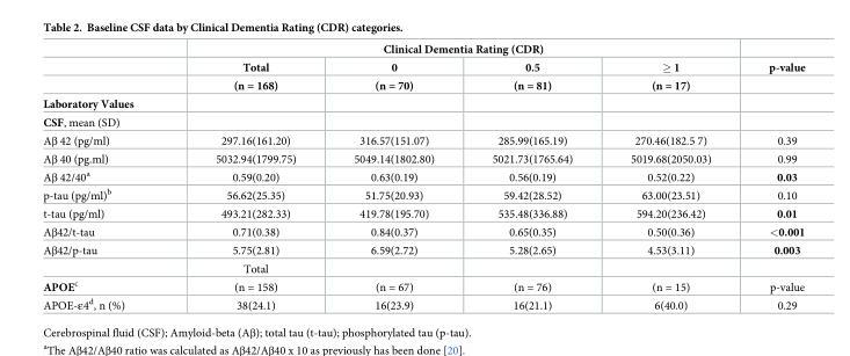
<table><thead><tr><td rowspan="3"></td><td colspan="4">Clinical Dementia Rating (CDR)</td><td rowspan="3">p-value</td></tr><tr><td rowspan="2">Total (n = 168)</td><td rowspan="2">0 (n = 70)</td><td rowspan="2">0.5 (n = 81)</td><td rowspan="2">≥ 1 (n = 17)</td></tr><tr></tr></thead><tbody><tr><td colspan="6">Laboratory Values</td></tr><tr><td colspan="6">CSF, mean (SD)</td></tr><tr><td>Aβ 42 (pg/ml)</td><td>297.16(161.20)</td><td>316.57(151.07)</td><td>285.99(165.19)</td><td>270.46(182.5 7)</td><td>0.39</td></tr><tr><td>Aβ 40 (pg.ml)</td><td>5032.94(1799.75)</td><td>5049.14(1802.80)</td><td>5021.73(1765.64)</td><td>5019.68(2050.03)</td><td>0.99</td></tr><tr><td>Aβ 42/40<sup>a</sup></td><td>0.59(0.20)</td><td>0.63(0.19)</td><td>0.56(0.19)</td><td>0.52(0.22)</td><td>0.03</td></tr><tr><td>p-tau (pg/ml)<sup>b</sup></td><td>56.62(25.35)</td><td>51.75(20.93)</td><td>59.42(28.52)</td><td>63.00(23.51)</td><td>0.10</td></tr><tr><td>t-tau (pg/ml)</td><td>493.21(282.33)</td><td>419.78(195.70)</td><td>535.48(336.88)</td><td>594.20(236.42)</td><td>0.01</td></tr><tr><td>Aβ42/t-tau</td><td>0.71(0.38)</td><td>0.84(0.37)</td><td>0.65(0.35)</td><td>0.50(0.36)</td><td>&lt;0.001</td></tr><tr><td rowspan="2">Aβ42/p-tau</td><td>5.75(2.81)</td><td>6.59(2.72)</td><td>5.28(2.65)</td><td>4.53(3.11)</td><td>0.003</td></tr><tr><td>Total</td><td></td><td></td><td></td><td></td></tr><tr><td>APOE<sup>c</sup></td><td>(n = 158)</td><td>(n = 67)</td><td>(n = 76)</td><td>(n = 15)</td><td>p-value</td></tr><tr><td>APOE-ε4<sup>d</sup>, n (%)</td><td>38(24.1)</td><td>16(23.9)</td><td>16(21.1)</td><td>6(40.0)</td><td>0.29</td></tr></tbody></table>